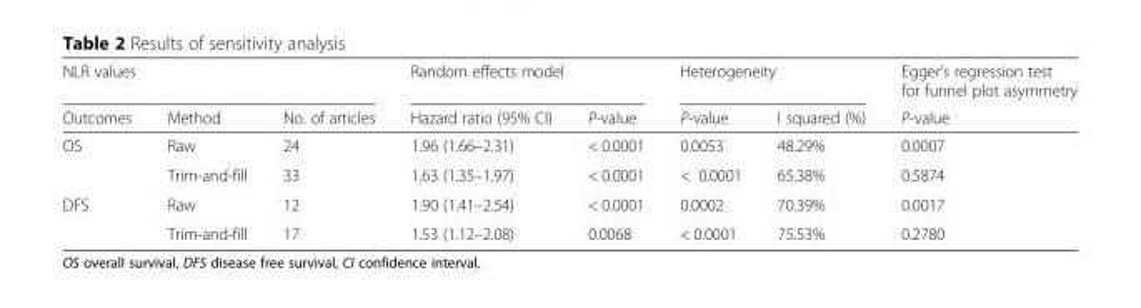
<table><thead><tr><td colspan="3">NLR values</td><td colspan="2">Random effects model</td><td colspan="2">Heterogeneity</td><td rowspan="2">Egger’s regression test for funnel plot asymmetry P-value</td></tr><tr><td>Outcomes</td><td>Method</td><td>No. of articles</td><td>Hazard ratio (95% CI)</td><td>P-value</td><td>P-value</td><td>I squared (%)</td></tr></thead><tbody><tr><td rowspan="2">OS</td><td>Raw</td><td>24</td><td>1.96 (1.66–2.31)</td><td>&lt; 0.0001</td><td>0.0053</td><td>48.29%</td><td>0.0007</td></tr><tr><td>Trim-and-fill</td><td>33</td><td>1.63 (1.35–1.97)</td><td>&lt; 0.0001</td><td>&lt; 0.0001</td><td>65.38%</td><td>0.5874</td></tr><tr><td rowspan="2">DFS</td><td>Raw</td><td>12</td><td>1.90 (1.41–2.54)</td><td>&lt; 0.0001</td><td>0.0002</td><td>70.39%</td><td>0.0017</td></tr><tr><td>Trim-and-fill</td><td>17</td><td>1.53 (1.12–2.08)</td><td>0.0068</td><td>&lt; 0.0001</td><td>75.53%</td><td>0.2780</td></tr></tbody></table>